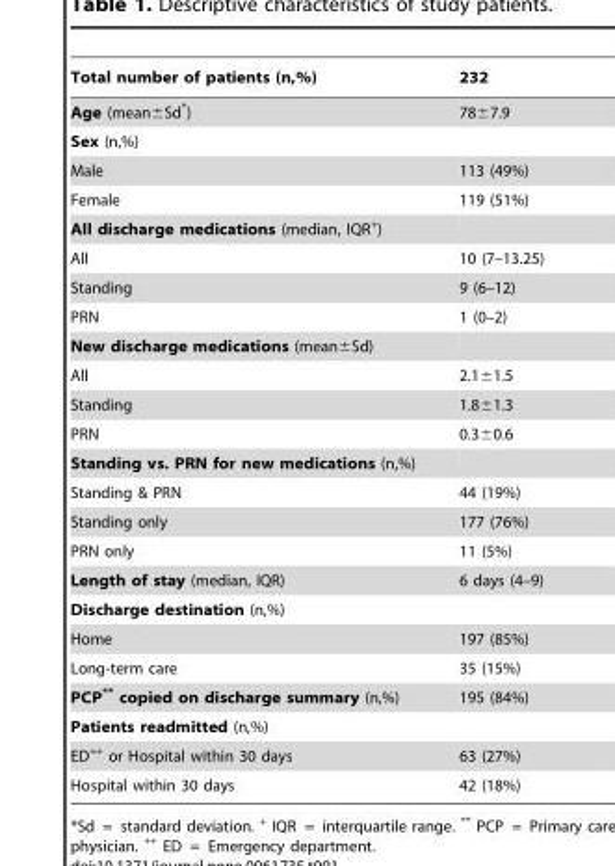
<table><thead><tr><td>Total number of patients (n,%)</td><td>232</td></tr></thead><tbody><tr><td>Age (mean±Sd*)</td><td>78±7.9</td></tr><tr><td colspan="2">Sex (n,%)</td></tr><tr><td>Male</td><td>113 (49%)</td></tr><tr><td>Female</td><td>119 (51%)</td></tr><tr><td colspan="2">All discharge medications (median, IQR<sup>+</sup>)</td></tr><tr><td>All</td><td>10 (7–13.25)</td></tr><tr><td>Standing</td><td>9 (6–12)</td></tr><tr><td>PRN</td><td>1 (0–2)</td></tr><tr><td colspan="2">New discharge medications (mean±Sd)</td></tr><tr><td>All</td><td>2.1±1.5</td></tr><tr><td>Standing</td><td>1.8±1.3</td></tr><tr><td>PRN</td><td>0.3±0.6</td></tr><tr><td colspan="2">Standing vs. PRN for new medications (n,%)</td></tr><tr><td>Standing &amp; PRN</td><td>44 (19%)</td></tr><tr><td>Standing only</td><td>177 (76%)</td></tr><tr><td>PRN only</td><td>11 (5%)</td></tr><tr><td>Length of stay (median, IQR)</td><td>6 days (4–9)</td></tr><tr><td colspan="2">Discharge destination (n,%)</td></tr><tr><td>Home</td><td>197 (85%)</td></tr><tr><td>Long-term care</td><td>35 (15%)</td></tr><tr><td>PCP** copied on discharge summary (n,%)</td><td>195 (84%)</td></tr><tr><td colspan="2">Patients readmitted (n,%)</td></tr><tr><td>ED<sup>++</sup> or Hospital within 30 days</td><td>63 (27%)</td></tr><tr><td>Hospital within 30 days</td><td>42 (18%)</td></tr></tbody></table>